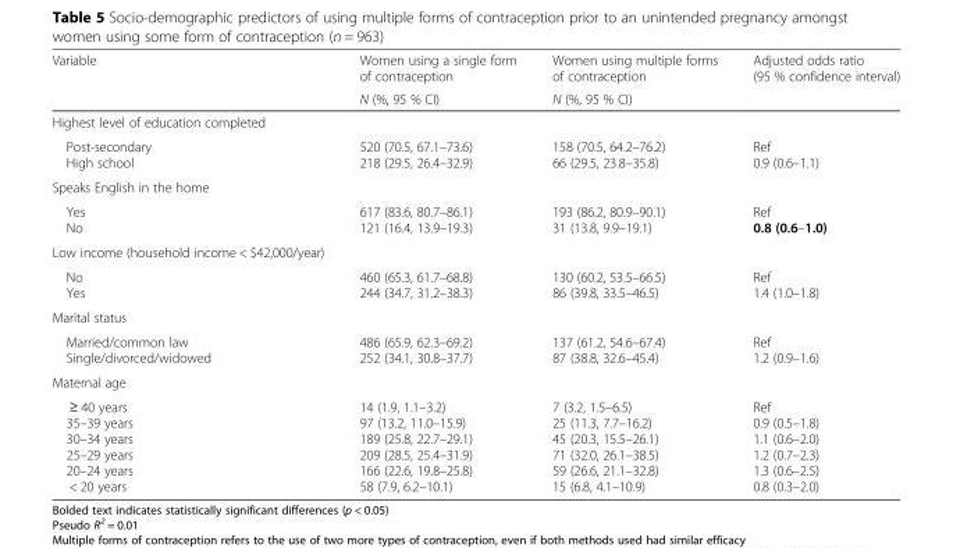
<table><thead><tr><td rowspan="2">Variable</td><td rowspan="2">Women using a single form of contraception N (%, 95 % CI)</td><td rowspan="2">Women using multiple forms of contraception N (%, 95 % CI)</td><td rowspan="2">Adjusted odds ratio (95 % confidence interval)</td></tr><tr></tr></thead><tbody><tr><td colspan="4">Highest level of education completed</td></tr><tr><td>Post-secondary High school</td><td>520 (70.5, 67.1–73.6) 218 (29.5, 26.4–32.9)</td><td>158 (70.5, 64.2–76.2) 66 (29.5, 23.8–35.8)</td><td>Ref 0.9 (0.6–1.1)</td></tr><tr><td colspan="4">Speaks English in the home</td></tr><tr><td>Yes No</td><td>617 (83.6, 80.7–86.1) 121 (16.4, 13.9–19.3)</td><td>193 (86.2, 80.9–90.1) 31 (13.8, 9.9–19.1)</td><td>Ref 0.8 (0.6–1.0)</td></tr><tr><td colspan="4">Low income (household income &lt; $42,000/year)</td></tr><tr><td>No Yes</td><td>460 (65.3, 61.7–68.8) 244 (34.7, 31.2–38.3)</td><td>130 (60.2, 53.5–66.5) 86 (39.8, 33.5–46.5)</td><td>Ref 1.4 (1.0–1.8)</td></tr><tr><td colspan="4">Marital status</td></tr><tr><td>Married/common law Single/divorced/widowed</td><td>486 (65.9, 62.3–69.2) 252 (34.1, 30.8–37.7)</td><td>137 (61.2, 54.6–67.4) 87 (38.8, 32.6–45.4)</td><td>Ref 1.2 (0.9–1.6)</td></tr><tr><td colspan="4">Maternal age</td></tr><tr><td>≥ 40 years 35–39 years 30–34 years 25–29 years 20–24 years &lt; 20 years</td><td>14 (1.9, 1.1–3.2) 97 (13.2, 11.0–15.9) 189 (25.8, 22.7–29.1) 209 (28.5, 25.4–31.9) 166 (22.6, 19.8–25.8) 58 (7.9, 6.2–10.1)</td><td>7 (3.2, 1.5–6.5) 25 (11.3, 7.7–16.2) 45 (20.3, 15.5–26.1) 71 (32.0, 26.1–38.5) 59 (26.6, 21.1–32.8) 15 (6.8, 4.1–10.9)</td><td>Ref 0.9 (0.5–1.8) 1.1 (0.6–2.0) 1.2 (0.7–2.3) 1.3 (0.6–2.5) 0.8 (0.3–2.0)</td></tr></tbody></table>